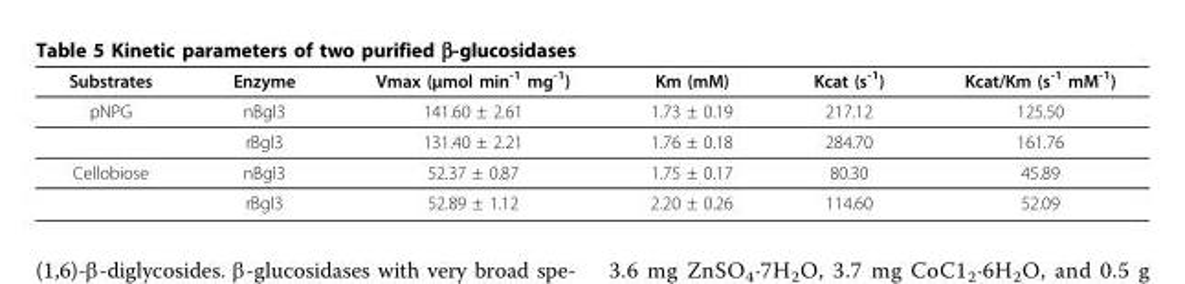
<table><thead><tr><td>Substrates</td><td>Enzyme</td><td>Vmax (μmol min<sup>-1</sup> mg<sup>-1</sup>)</td><td>Km (mM)</td><td>Kcat (s<sup>-1</sup>)</td><td>Kcat/Km (s<sup>-1</sup> mM<sup>-1</sup>)</td></tr></thead><tbody><tr><td rowspan="2">pNPG</td><td>nBgl3</td><td>141.60 ± 2.61</td><td>1.73 ± 0.19</td><td>217.12</td><td>125.50</td></tr><tr><td>rBgl3</td><td>131.40 ± 2.21</td><td>1.76 ± 0.18</td><td>284.70</td><td>161.76</td></tr><tr><td rowspan="2">Cellobiose</td><td>nBgl3</td><td>52.37 ± 0.87</td><td>1.75 ± 0.17</td><td>80.30</td><td>45.89</td></tr><tr><td>rBgl3</td><td>52.89 ± 1.12</td><td>2.20 ± 0.26</td><td>114.60</td><td>52.09</td></tr></tbody></table>